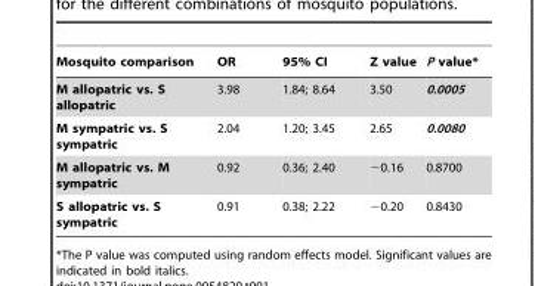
<table><thead><tr><td>Mosquito comparison</td><td>OR</td><td>95% CI</td><td>Z value</td><td>P value*</td></tr></thead><tbody><tr><td>M allopatric vs. S allopatric</td><td>3.98</td><td>1.84; 8.64</td><td>3.50</td><td>0.0005</td></tr><tr><td>M sympatric vs. S sympatric</td><td>2.04</td><td>1.20; 3.45</td><td>2.65</td><td>0.0080</td></tr><tr><td>M allopatric vs. M sympatric</td><td>0.92</td><td>0.36; 2.40</td><td>−0.16</td><td>0.8700</td></tr><tr><td>S allopatric vs. S sympatric</td><td>0.91</td><td>0.38; 2.22</td><td>−0.20</td><td>0.8430</td></tr></tbody></table>